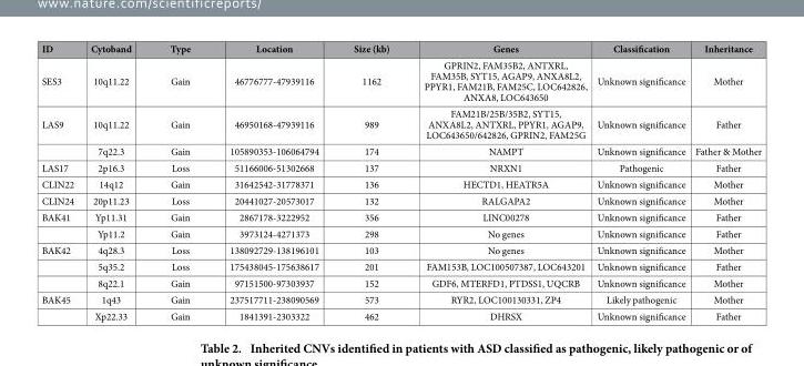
<table><thead><tr><td>ID</td><td>Cytoband</td><td>Type</td><td>Location</td><td>Size (kb)</td><td>Genes</td><td>Classification</td><td>Inheritance</td></tr></thead><tbody><tr><td>SES3</td><td>10q11.22</td><td>Gain</td><td>46776777-47939116</td><td>1162</td><td>GPRIN2, FAM35B2, ANTXRL, FAM35B, SYT15, AGAP9, ANXA8L2, PPYR1, FAM21B, FAM25C, LOC642826, ANXA8, LOC643650</td><td>Unknown significance</td><td>Mother</td></tr><tr><td rowspan="2">LAS9</td><td>10q11.22</td><td>Gain</td><td>46950168-47939116</td><td>989</td><td>FAM21B/25B/35B2, SYT15, ANXA8L2, ANTXRL, PPYR1, AGAP9, LOC643650/642826, GPRIN2, FAM25G</td><td>Unknown significance</td><td>Father</td></tr><tr><td>7q22.3</td><td>Gain</td><td>105890353-106064794</td><td>174</td><td>NAMPT</td><td>Unknown significance</td><td>Father &amp; Mother</td></tr><tr><td>LAS17</td><td>2p16.3</td><td>Loss</td><td>51166006-51302668</td><td>137</td><td>NRXN1</td><td>Pathogenic</td><td>Father</td></tr><tr><td>CLIN22</td><td>14q12</td><td>Gain</td><td>31642542-31778371</td><td>136</td><td>HECTD1, HEATR5A</td><td>Unknown significance</td><td>Mother</td></tr><tr><td>CLIN24</td><td>20p11.23</td><td>Loss</td><td>20441027-20573017</td><td>132</td><td>RALGAPA2</td><td>Unknown significance</td><td>Mother</td></tr><tr><td rowspan="2">BAK41</td><td>Yp11.31</td><td>Gain</td><td>2867178-3222952</td><td>356</td><td>LINC00278</td><td>Unknown significance</td><td>Father</td></tr><tr><td>Yp11.2</td><td>Gain</td><td>3973124-4271373</td><td>298</td><td>No genes</td><td>Unknown significance</td><td>Father</td></tr><tr><td rowspan="3">BAK42</td><td>4q28.3</td><td>Loss</td><td>138092729-138196101</td><td>103</td><td>No genes</td><td>Unknown significance</td><td>Mother</td></tr><tr><td>5q35.2</td><td>Loss</td><td>175438045-175638617</td><td>201</td><td>FAM153B, LOC100507387, LOC643201</td><td>Unknown significance</td><td>Father</td></tr><tr><td>8q22.1</td><td>Gain</td><td>97151500-97303937</td><td>152</td><td>GDF6, MTERFD1, PTDSS1, UQCRB</td><td>Unknown significance</td><td>Mother</td></tr><tr><td rowspan="2">BAK45</td><td>1q43</td><td>Gain</td><td>237517711-238090569</td><td>573</td><td>RYR2, LOC100130331, ZP4</td><td>Likely pathogenic</td><td>Mother</td></tr><tr><td>Xp22.33</td><td>Gain</td><td>1841391-2303322</td><td>462</td><td>DHRSX</td><td>Unknown significance</td><td>Father</td></tr></tbody></table>